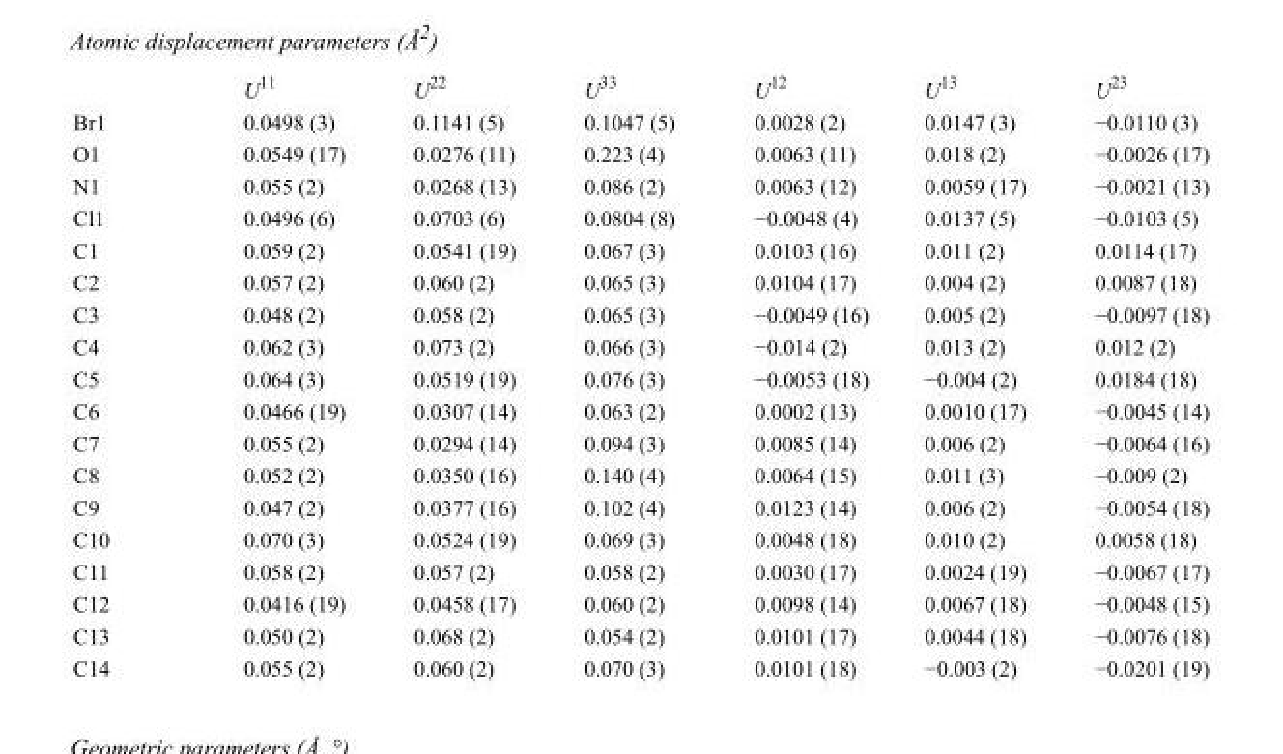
<table><thead><tr><td></td><td>U<sup>11</sup></td><td>U<sup>22</sup></td><td>U<sup>33</sup></td><td>U<sup>12</sup></td><td>U<sup>13</sup></td><td>U<sup>23</sup></td></tr></thead><tbody><tr><td>Br1</td><td>0.0498 (3)</td><td>0.1141 (5)</td><td>0.1047 (5)</td><td>0.0028 (2)</td><td>0.0147 (3)</td><td>−0.0110 (3)</td></tr><tr><td>O1</td><td>0.0549 (17)</td><td>0.0276 (11)</td><td>0.223 (4)</td><td>0.0063 (11)</td><td>0.018 (2)</td><td>−0.0026 (17)</td></tr><tr><td>N1</td><td>0.055 (2)</td><td>0.0268 (13)</td><td>0.086 (2)</td><td>0.0063 (12)</td><td>0.0059 (17)</td><td>−0.0021 (13)</td></tr><tr><td>Cl1</td><td>0.0496 (6)</td><td>0.0703 (6)</td><td>0.0804 (8)</td><td>−0.0048 (4)</td><td>0.0137 (5)</td><td>−0.0103 (5)</td></tr><tr><td>C1</td><td>0.059 (2)</td><td>0.0541 (19)</td><td>0.067 (3)</td><td>0.0103 (16)</td><td>0.011 (2)</td><td>0.0114 (17)</td></tr><tr><td>C2</td><td>0.057 (2)</td><td>0.060 (2)</td><td>0.065 (3)</td><td>0.0104 (17)</td><td>0.004 (2)</td><td>0.0087 (18)</td></tr><tr><td>C3</td><td>0.048 (2)</td><td>0.058 (2)</td><td>0.065 (3)</td><td>−0.0049 (16)</td><td>0.005 (2)</td><td>−0.0097 (18)</td></tr><tr><td>C4</td><td>0.062 (3)</td><td>0.073 (2)</td><td>0.066 (3)</td><td>−0.014 (2)</td><td>0.013 (2)</td><td>0.012 (2)</td></tr><tr><td>C5</td><td>0.064 (3)</td><td>0.0519 (19)</td><td>0.076 (3)</td><td>−0.0053 (18)</td><td>−0.004 (2)</td><td>0.0184 (18)</td></tr><tr><td>C6</td><td>0.0466 (19)</td><td>0.0307 (14)</td><td>0.063 (2)</td><td>0.0002 (13)</td><td>0.0010 (17)</td><td>−0.0045 (14)</td></tr><tr><td>C7</td><td>0.055 (2)</td><td>0.0294 (14)</td><td>0.094 (3)</td><td>0.0085 (14)</td><td>0.006 (2)</td><td>−0.0064 (16)</td></tr><tr><td>C8</td><td>0.052 (2)</td><td>0.0350 (16)</td><td>0.140 (4)</td><td>0.0064 (15)</td><td>0.011 (3)</td><td>−0.009 (2)</td></tr><tr><td>C9</td><td>0.047 (2)</td><td>0.0377 (16)</td><td>0.102 (4)</td><td>0.0123 (14)</td><td>0.006 (2)</td><td>−0.0054 (18)</td></tr><tr><td>C10</td><td>0.070 (3)</td><td>0.0524 (19)</td><td>0.069 (3)</td><td>0.0048 (18)</td><td>0.010 (2)</td><td>0.0058 (18)</td></tr><tr><td>C11</td><td>0.058 (2)</td><td>0.057 (2)</td><td>0.058 (2)</td><td>0.0030 (17)</td><td>0.0024 (19)</td><td>−0.0067 (17)</td></tr><tr><td>C12</td><td>0.0416 (19)</td><td>0.0458 (17)</td><td>0.060 (2)</td><td>0.0098 (14)</td><td>0.0067 (18)</td><td>−0.0048 (15)</td></tr><tr><td>C13</td><td>0.050 (2)</td><td>0.068 (2)</td><td>0.054 (2)</td><td>0.0101 (17)</td><td>0.0044 (18)</td><td>−0.0076 (18)</td></tr><tr><td>C14</td><td>0.055 (2)</td><td>0.060 (2)</td><td>0.070 (3)</td><td>0.0101 (18)</td><td>−0.003 (2)</td><td>−0.0201 (19)</td></tr></tbody></table>